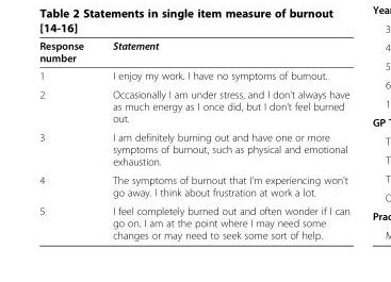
<table><thead><tr><td>Response number</td><td>Statement</td></tr></thead><tbody><tr><td>1</td><td>I enjoy my work. I have no symptoms of burnout.</td></tr><tr><td>2</td><td>Occasionally I am under stress, and I don’t always have as much energy as I once did, but I don’t feel burned out.</td></tr><tr><td>3</td><td>I am definitely burning out and have one or more symptoms of burnout, such as physical and emotional exhaustion.</td></tr><tr><td>4</td><td>The symptoms of burnout that I’m experiencing won’t go away. I think about frustration at work a lot.</td></tr><tr><td>5</td><td>I feel completely burned out and often wonder if I can go on. I am at the point where I may need some changes or may need to seek some sort of help.</td></tr></tbody></table>